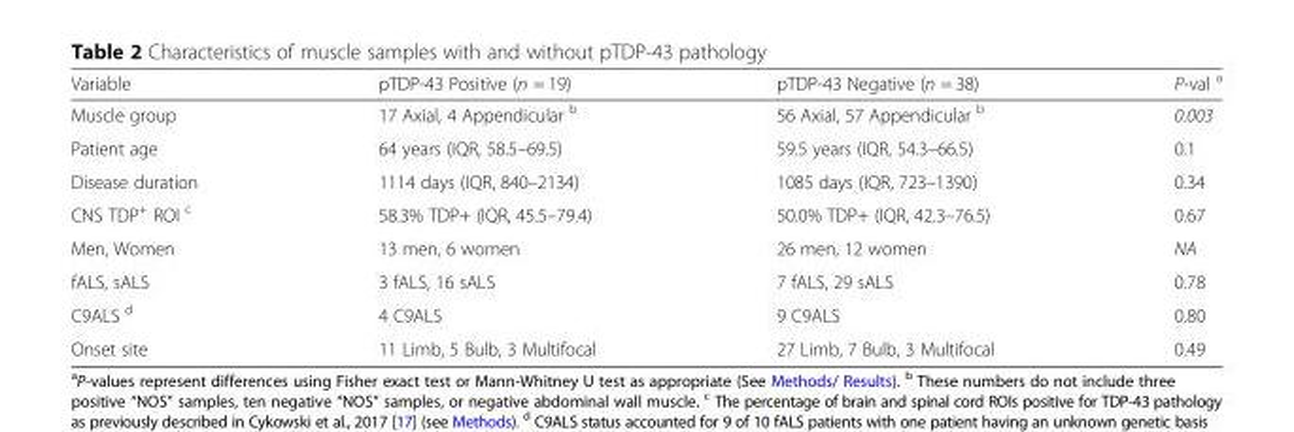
<table><thead><tr><td>Variable</td><td>pTDP-43 Positive (n = 19)</td><td>pTDP-43 Negative (n = 38)</td><td>P-val <sup>a</sup></td></tr></thead><tbody><tr><td>Muscle group</td><td>17 Axial, 4 Appendicular <sup>b</sup></td><td>56 Axial, 57 Appendicular <sup>b</sup></td><td>0.003</td></tr><tr><td>Patient age</td><td>64 years (IQR, 58.5–69.5)</td><td>59.5 years (IQR, 54.3–66.5)</td><td>0.1</td></tr><tr><td>Disease duration</td><td>1114 days (IQR, 840–2134)</td><td>1085 days (IQR, 723–1390)</td><td>0.34</td></tr><tr><td>CNS TDP<sup>+</sup> ROI <sup>c</sup></td><td>58.3% TDP+ (IQR, 45.5–79.4)</td><td>50.0% TDP+ (IQR, 42.3–76.5)</td><td>0.67</td></tr><tr><td>Men, Women</td><td>13 men, 6 women</td><td>26 men, 12 women</td><td>NA</td></tr><tr><td>fALS, sALS</td><td>3 fALS, 16 sALS</td><td>7 fALS, 29 sALS</td><td>0.78</td></tr><tr><td>C9ALS <sup>d</sup></td><td>4 C9ALS</td><td>9 C9ALS</td><td>0.80</td></tr><tr><td>Onset site</td><td>11 Limb, 5 Bulb, 3 Multifocal</td><td>27 Limb, 7 Bulb, 3 Multifocal</td><td>0.49</td></tr></tbody></table>